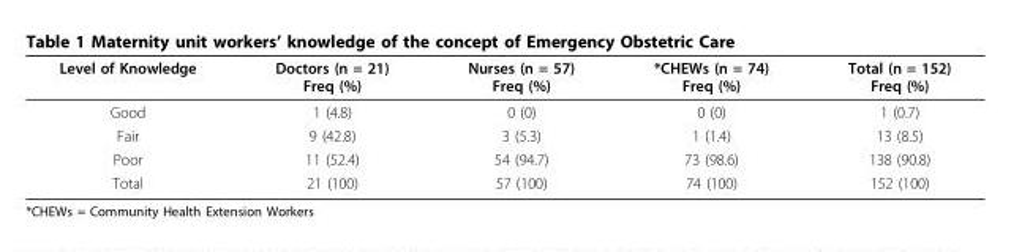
<table><thead><tr><td>Level of Knowledge</td><td>Doctors (n = 21) Freq (%)</td><td>Nurses (n = 57) Freq (%)</td><td>*CHEWs (n = 74) Freq (%)</td><td>Total (n = 152) Freq (%)</td></tr></thead><tbody><tr><td>Good</td><td>1 (4.8)</td><td>0 (0)</td><td>0 (0)</td><td>1 (0.7)</td></tr><tr><td>Fair</td><td>9 (42.8)</td><td>3 (5.3)</td><td>1 (1.4)</td><td>13 (8.5)</td></tr><tr><td>Poor</td><td>11 (52.4)</td><td>54 (94.7)</td><td>73 (98.6)</td><td>138 (90.8)</td></tr><tr><td>Total</td><td>21 (100)</td><td>57 (100)</td><td>74 (100)</td><td>152 (100)</td></tr></tbody></table>